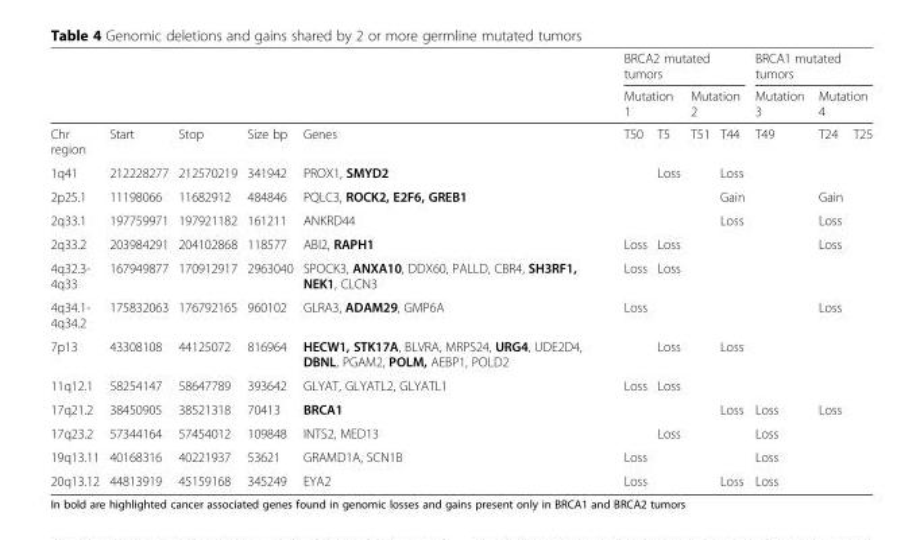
<table><thead><tr><td rowspan="3">Chr region</td><td rowspan="3">Start</td><td rowspan="3">Stop</td><td rowspan="3">Size bp</td><td rowspan="3">Genes</td><td colspan="4">BRCA2 mutated tumors</td><td colspan="3">BRCA1 mutated tumors</td></tr><tr><td colspan="2">Mutation 1</td><td colspan="2">Mutation 2</td><td rowspan="2">Mutation 3 T49</td><td colspan="2">Mutation 4</td></tr><tr><td>T50</td><td>T5</td><td>T51</td><td>T44</td><td>T24</td><td>T25</td></tr></thead><tbody><tr><td>1q41</td><td>212228277</td><td>212570219</td><td>341942</td><td>PROX1, SMYD2</td><td></td><td>Loss</td><td></td><td>Loss</td><td></td><td></td><td></td></tr><tr><td>2p25.1</td><td>11198066</td><td>11682912</td><td>484846</td><td>PQLC3, ROCK2, E2F6, GREB1</td><td></td><td></td><td></td><td>Gain</td><td></td><td>Gain</td><td></td></tr><tr><td>2q33.1</td><td>197759971</td><td>197921182</td><td>161211</td><td>ANKRD44</td><td></td><td></td><td></td><td>Loss</td><td></td><td>Loss</td><td></td></tr><tr><td>2q33.2</td><td>203984291</td><td>204102868</td><td>118577</td><td>ABI2, RAPH1</td><td>Loss</td><td>Loss</td><td></td><td></td><td></td><td>Loss</td><td></td></tr><tr><td>4q32.3- 4q33</td><td>167949877</td><td>170912917</td><td>2963040</td><td>SPOCK3, ANXA10, DDX60, PALLD, CBR4, SH3RF1, NEK1, CLCN3</td><td>Loss</td><td>Loss</td><td></td><td></td><td></td><td></td><td></td></tr><tr><td>4q34.1- 4q34.2</td><td>175832063</td><td>176792165</td><td>960102</td><td>GLRA3, ADAM29, GMP6A</td><td>Loss</td><td></td><td></td><td></td><td></td><td>Loss</td><td></td></tr><tr><td>7p13</td><td>43308108</td><td>44125072</td><td>816964</td><td>HECW1, STK17A, BLVRA, MRPS24, URG4, UDE2D4, DBNL, PGAM2, POLM, AEBP1, POLD2</td><td></td><td>Loss</td><td></td><td>Loss</td><td></td><td></td><td></td></tr><tr><td>11q12.1</td><td>58254147</td><td>58647789</td><td>393642</td><td>GLYAT, GLYATL2, GLYATL1</td><td>Loss</td><td>Loss</td><td></td><td></td><td></td><td></td><td></td></tr><tr><td>17q21.2</td><td>38450905</td><td>38521318</td><td>70413</td><td>BRCA1</td><td></td><td></td><td></td><td>Loss</td><td>Loss</td><td>Loss</td><td></td></tr><tr><td>17q23.2</td><td>57344164</td><td>57454012</td><td>109848</td><td>INTS2, MED13</td><td></td><td>Loss</td><td></td><td></td><td>Loss</td><td></td><td></td></tr><tr><td>19q13.11</td><td>40168316</td><td>40221937</td><td>53621</td><td>GRAMD1A, SCN1B</td><td>Loss</td><td></td><td></td><td></td><td>Loss</td><td></td><td></td></tr><tr><td>20q13.12</td><td>44813919</td><td>45159168</td><td>345249</td><td>EYA2</td><td>Loss</td><td></td><td></td><td>Loss</td><td>Loss</td><td></td><td></td></tr></tbody></table>